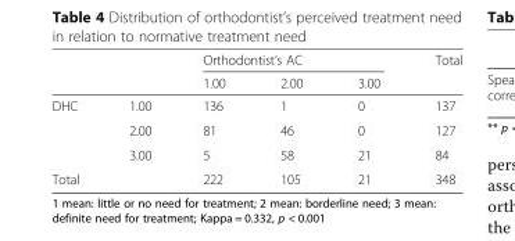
<table><thead><tr><td rowspan="2"></td><td rowspan="2"></td><td colspan="3">Orthodontist’s AC</td><td rowspan="2">Total</td></tr><tr><td>1.00</td><td>2.00</td><td>3.00</td></tr></thead><tbody><tr><td rowspan="3">DHC</td><td>1.00</td><td>136</td><td>1</td><td>0</td><td>137</td></tr><tr><td>2.00</td><td>81</td><td>46</td><td>0</td><td>127</td></tr><tr><td>3.00</td><td>5</td><td>58</td><td>21</td><td>84</td></tr><tr><td colspan="2">Total</td><td>222</td><td>105</td><td>21</td><td>348</td></tr></tbody></table>